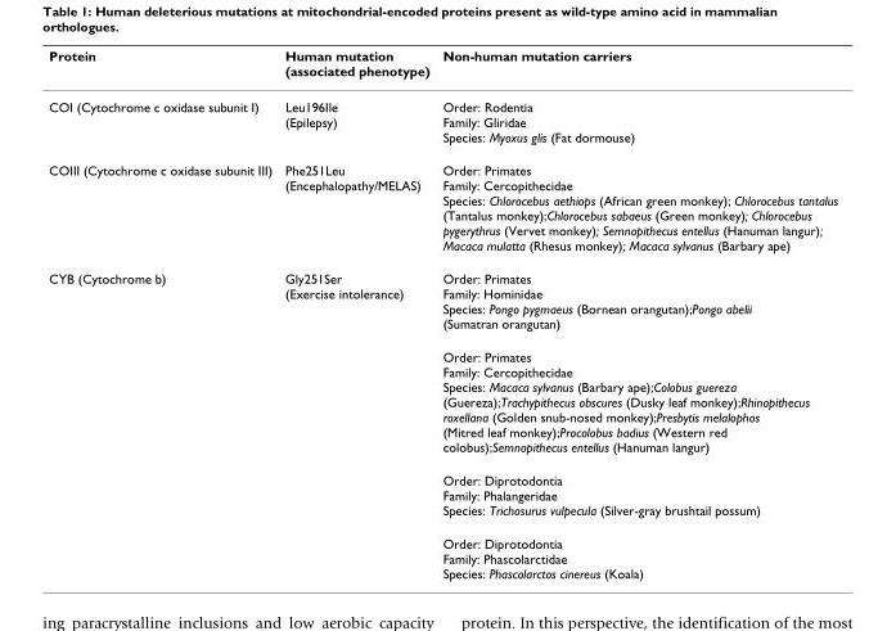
<table><thead><tr><td>Protein</td><td>Human mutation (associated phenotype)</td><td>Non-human mutation carriers</td></tr></thead><tbody><tr><td>COI (Cytochrome c oxidase subunit I)</td><td>Leu196Ile (Epilepsy)</td><td>Order: Rodentia Family: Gliridae Species: Myoxus glis (Fat dormouse)</td></tr><tr><td>COIII (Cytochrome c oxidase subunit III)</td><td>Phe251Leu (Encephalopathy/MELAS)</td><td>Order: Primates Family: Cercopithecidae Species: Chlorocebus aethiops (African green monkey); Chlorocebus tantalus (Tantalus monkey);Chlorocebus sabaeus (Green monkey); Chlorocebus pygerythrus (Vervet monkey); Semnopithecus entellus (Hanuman langur); Macaca mulatta (Rhesus monkey); Macaca sylvanus (Barbary ape)</td></tr><tr><td rowspan="4">CYB (Cytochrome b)</td><td>Gly251Ser (Exercise intolerance)</td><td>Order: Primates Family: Hominidae Species: Pongo pygmaeus (Bornean orangutan);Pongo abelii (Sumatran orangutan)</td></tr><tr><td></td><td>Order: Primates Family: Cercopithecidae Species: Macaca sylvanus (Barbary ape);Colobus guereza (Guereza);Trachypithecus obscures (Dusky leaf monkey);Rhinopithecus roxellana (Golden snub-nosed monkey);Presbytis melalophos (Mitred leaf monkey);Procolobus badius (Western red colobus);Semnopithecus entellus (Hanuman langur)</td></tr><tr><td></td><td>Order: Diprotodontia Family: Phalangeridae Species: Trichosurus vulpecula (Silver-gray brushtail possum)</td></tr><tr><td></td><td>Order: Diprotodontia Family: Phascolarctidae Species: Phascolarctos cinereus (Koala)</td></tr></tbody></table>